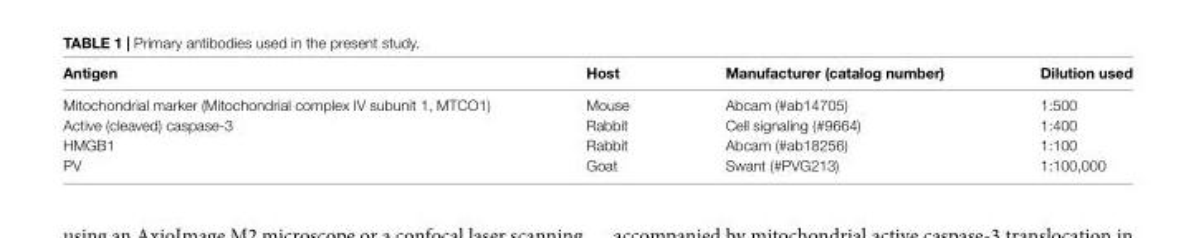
<table><thead><tr><td>Antigen</td><td>Host</td><td>Manufacturer (catalog number)</td><td>Dilution used</td></tr></thead><tbody><tr><td>Mitochondrial marker (Mitochondrial complex IV subunit 1, MTCO1)</td><td>Mouse</td><td>Abcam (#ab14705)</td><td>1:500</td></tr><tr><td>Active (cleaved) caspase-3</td><td>Rabbit</td><td>Cell signaling (#9664)</td><td>1:400</td></tr><tr><td>HMGB1</td><td>Rabbit</td><td>Abcam (#ab18256)</td><td>1:100</td></tr><tr><td>PV</td><td>Goat</td><td>Swant (#PVG213)</td><td>1:100,000</td></tr></tbody></table>